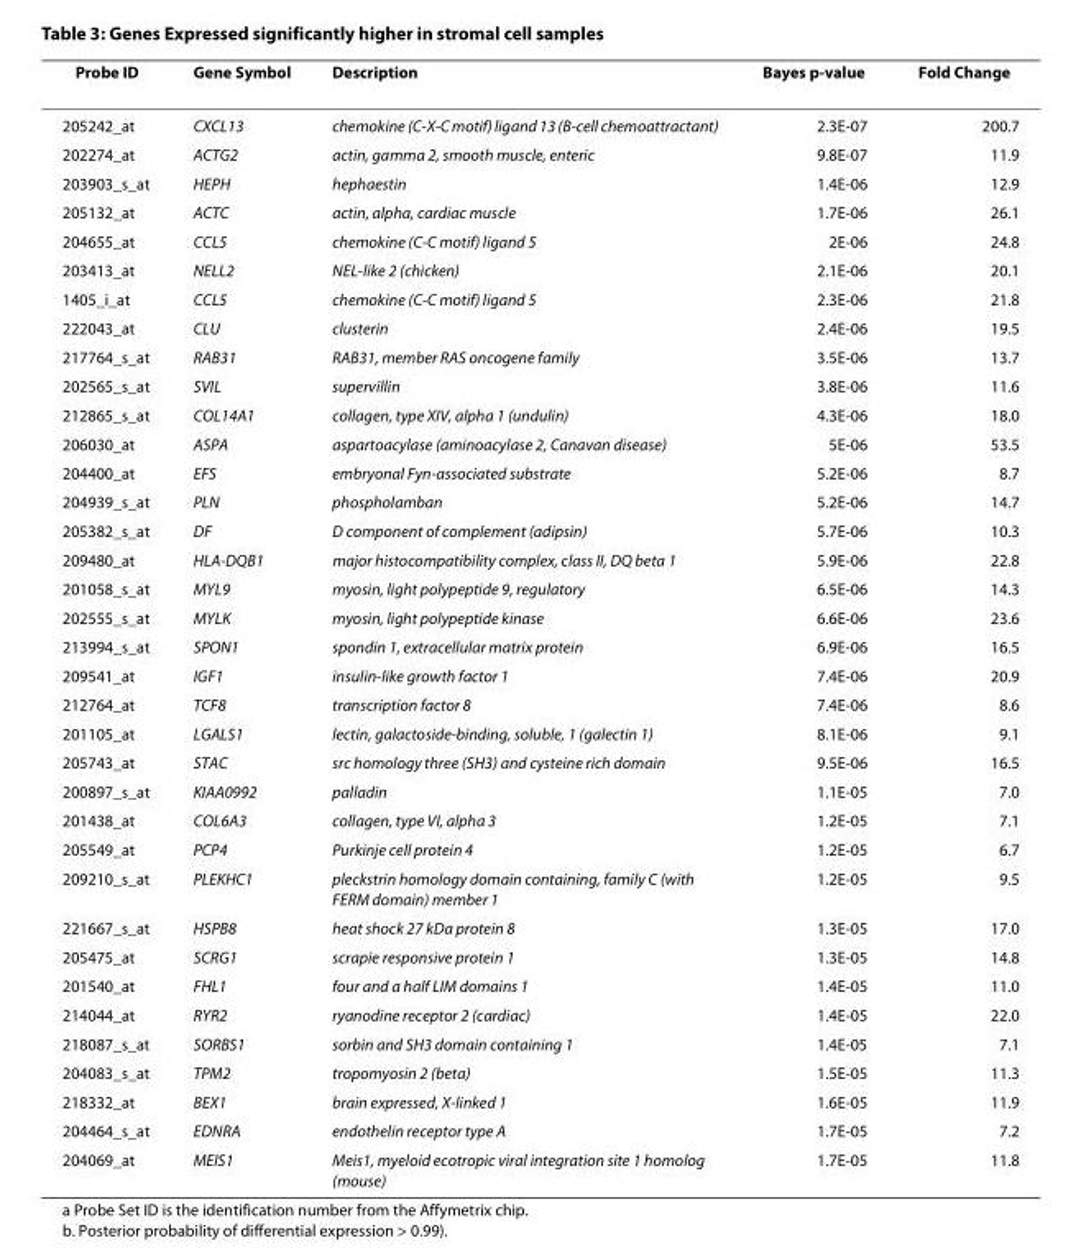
<table><thead><tr><td>Probe ID</td><td>Gene Symbol</td><td>Description</td><td>Bayes p-value</td><td>Fold Change</td></tr></thead><tbody><tr><td>205242_at</td><td>CXCL13</td><td>chemokine (C-X-C motif) ligand 13 (B-cell chemoattractant)</td><td>2.3E-07</td><td>200.7</td></tr><tr><td>202274_at</td><td>ACTG2</td><td>actin, gamma 2, smooth muscle, enteric</td><td>9.8E-07</td><td>11.9</td></tr><tr><td>203903_s_at</td><td>HEPH</td><td>hephaestin</td><td>1.4E-06</td><td>12.9</td></tr><tr><td>205132_at</td><td>ACTC</td><td>actin, alpha, cardiac muscle</td><td>1.7E-06</td><td>26.1</td></tr><tr><td>204655_at</td><td>CCL5</td><td>chemokine (C-C motif) ligand 5</td><td>2E-06</td><td>24.8</td></tr><tr><td>203413_at</td><td>NELL2</td><td>NEL-like 2 (chicken)</td><td>2.1E-06</td><td>20.1</td></tr><tr><td>1405_i_at</td><td>CCL5</td><td>chemokine (C-C motif) ligand 5</td><td>2.3E-06</td><td>21.8</td></tr><tr><td>222043_at</td><td>CLU</td><td>clusterin</td><td>2.4E-06</td><td>19.5</td></tr><tr><td>217764_s_at</td><td>RAB31</td><td>RAB31, member RAS oncogene family</td><td>3.5E-06</td><td>13.7</td></tr><tr><td>202565_s_at</td><td>SVIL</td><td>supervillin</td><td>3.8E-06</td><td>11.6</td></tr><tr><td>212865_s_at</td><td>COL14A1</td><td>collagen, type XIV, alpha 1 (undulin)</td><td>4.3E-06</td><td>18.0</td></tr><tr><td>206030_at</td><td>ASPA</td><td>aspartoacylase (aminoacylase 2, Canavan disease)</td><td>5E-06</td><td>53.5</td></tr><tr><td>204400_at</td><td>EFS</td><td>embryonal Fyn-associated substrate</td><td>5.2E-06</td><td>8.7</td></tr><tr><td>204939_s_at</td><td>PLN</td><td>phospholamban</td><td>5.2E-06</td><td>14.7</td></tr><tr><td>205382_s_at</td><td>DF</td><td>D component of complement (adipsin)</td><td>5.7E-06</td><td>10.3</td></tr><tr><td>209480_at</td><td>HLA-DQB1</td><td>major histocompatibility complex, class II, DQ beta 1</td><td>5.9E-06</td><td>22.8</td></tr><tr><td>201058_s_at</td><td>MYL9</td><td>myosin, light polypeptide 9, regulatory</td><td>6.5E-06</td><td>14.3</td></tr><tr><td>202555_s_at</td><td>MYLK</td><td>myosin, light polypeptide kinase</td><td>6.6E-06</td><td>23.6</td></tr><tr><td>213994_s_at</td><td>SPON1</td><td>spondin 1, extracellular matrix protein</td><td>6.9E-06</td><td>16.5</td></tr><tr><td>209541_at</td><td>IGF1</td><td>insulin-like growth factor 1</td><td>7.4E-06</td><td>20.9</td></tr><tr><td>212764_at</td><td>TCF8</td><td>transcription factor 8</td><td>7.4E-06</td><td>8.6</td></tr><tr><td>201105_at</td><td>LGALS1</td><td>lectin, galactoside-binding, soluble, 1 (galectin 1)</td><td>8.1E-06</td><td>9.1</td></tr><tr><td>205743_at</td><td>STAC</td><td>src homology three (SH3) and cysteine rich domain</td><td>9.5E-06</td><td>16.5</td></tr><tr><td>200897_s_at</td><td>KIAA0992</td><td>palladin</td><td>1.1E-05</td><td>7.0</td></tr><tr><td>201438_at</td><td>COL6A3</td><td>collagen, type VI, alpha 3</td><td>1.2E-05</td><td>7.1</td></tr><tr><td>205549_at</td><td>PCP4</td><td>Purkinje cell protein 4</td><td>1.2E-05</td><td>6.7</td></tr><tr><td>209210_s_at</td><td>PLEKHC1</td><td>pleckstrin homology domain containing, family C (with FERM domain) member 1</td><td>1.2E-05</td><td>9.5</td></tr><tr><td>221667_s_at</td><td>HSPB8</td><td>heat shock 27 kDa protein 8</td><td>1.3E-05</td><td>17.0</td></tr><tr><td>205475_at</td><td>SCRG1</td><td>scrapie responsive protein 1</td><td>1.3E-05</td><td>14.8</td></tr><tr><td>201540_at</td><td>FHL1</td><td>four and a half LIM domains 1</td><td>1.4E-05</td><td>11.0</td></tr><tr><td>214044_at</td><td>RYR2</td><td>ryanodine receptor 2 (cardiac)</td><td>1.4E-05</td><td>22.0</td></tr><tr><td>218087_s_at</td><td>SORBS1</td><td>sorbin and SH3 domain containing 1</td><td>1.4E-05</td><td>7.1</td></tr><tr><td>204083_s_at</td><td>TPM2</td><td>tropomyosin 2 (beta)</td><td>1.5E-05</td><td>11.3</td></tr><tr><td>218332_at</td><td>BEX1</td><td>brain expressed, X-linked 1</td><td>1.6E-05</td><td>11.9</td></tr><tr><td>204464_s_at</td><td>EDNRA</td><td>endothelin receptor type A</td><td>1.7E-05</td><td>7.2</td></tr><tr><td>204069_at</td><td>MEIS1</td><td>Meis1, myeloid ecotropic viral integration site 1 homolog (mouse)</td><td>1.7E-05</td><td>11.8</td></tr></tbody></table>